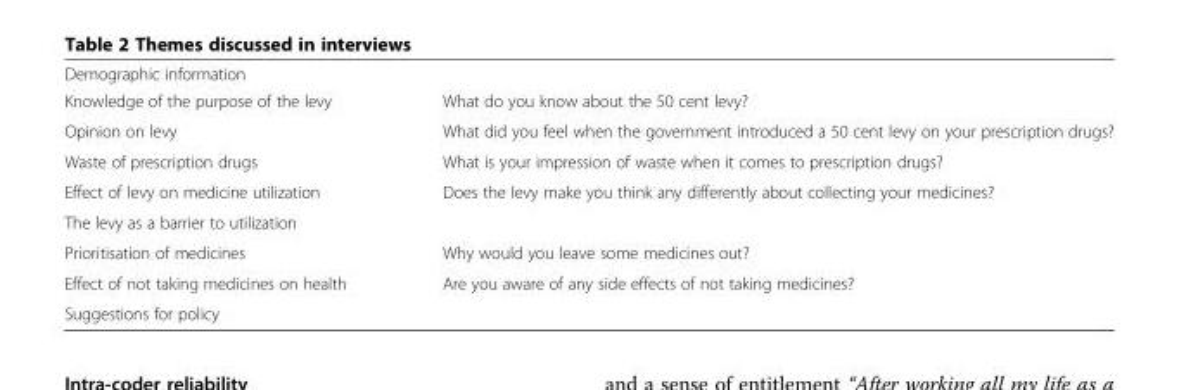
<table><tbody><tr><td colspan="2">Demographic information</td></tr><tr><td>Knowledge of the purpose of the levy</td><td>What do you know about the 50 cent levy?</td></tr><tr><td>Opinion on levy</td><td>What did you feel when the government introduced a 50 cent levy on your prescription drugs?</td></tr><tr><td>Waste of prescription drugs</td><td>What is your impression of waste when it comes to prescription drugs?</td></tr><tr><td>Effect of levy on medicine utilization</td><td>Does the levy make you think any differently about collecting your medicines?</td></tr><tr><td colspan="2">The levy as a barrier to utilization</td></tr><tr><td>Prioritisation of medicines</td><td>Why would you leave some medicines out?</td></tr><tr><td>Effect of not taking medicines on health</td><td>Are you aware of any side effects of not taking medicines?</td></tr><tr><td>Suggestions for policy</td><td></td></tr></tbody></table>